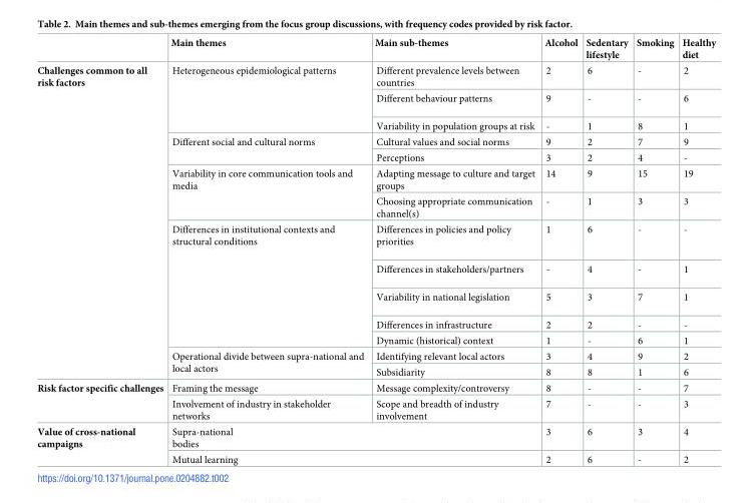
<table><thead><tr><td></td><td>Main themes</td><td>Main sub-themes</td><td>Alcohol</td><td>Sedentary lifestyle</td><td>Smoking</td><td>Healthy diet</td></tr></thead><tbody><tr><td rowspan="14">Challenges common to all risk factors</td><td rowspan="3">Heterogeneous epidemiological patterns</td><td>Different prevalence levels between countries</td><td>2</td><td>6</td><td>-</td><td>2</td></tr><tr><td>Different behaviour patterns</td><td>9</td><td>-</td><td>-</td><td>6</td></tr><tr><td>Variability in population groups at risk</td><td>-</td><td>1</td><td>8</td><td>1</td></tr><tr><td rowspan="2">Different social and cultural norms</td><td>Cultural values and social norms</td><td>9</td><td>2</td><td>7</td><td>9</td></tr><tr><td>Perceptions</td><td>3</td><td>2</td><td>4</td><td>-</td></tr><tr><td rowspan="2">Variability in core communication tools and media</td><td>Adapting message to culture and target groups</td><td>14</td><td>9</td><td>15</td><td>19</td></tr><tr><td>Choosing appropriate communication channel(s)</td><td>-</td><td>1</td><td>3</td><td>3</td></tr><tr><td rowspan="5">Differences in institutional contexts and structural conditions</td><td>Differences in policies and policy priorities</td><td>1</td><td>6</td><td>-</td><td>-</td></tr><tr><td>Differences in stakeholders/partners</td><td>-</td><td>4</td><td>-</td><td>1</td></tr><tr><td>Variability in national legislation</td><td>5</td><td>3</td><td>7</td><td>1</td></tr><tr><td>Differences in infrastructure</td><td>2</td><td>2</td><td>-</td><td>-</td></tr><tr><td>Dynamic (historical) context</td><td>1</td><td>-</td><td>6</td><td>1</td></tr><tr><td rowspan="2">Operational divide between supra-national and local actors</td><td>Identifying relevant local actors</td><td>3</td><td>4</td><td>9</td><td>2</td></tr><tr><td>Subsidiarity</td><td>8</td><td>8</td><td>1</td><td>6</td></tr><tr><td rowspan="2">Risk factor specific challenges</td><td>Framing the message</td><td>Message complexity/controversy</td><td>8</td><td>-</td><td>-</td><td>7</td></tr><tr><td>Involvement of industry in stakeholder networks</td><td>Scope and breadth of industry involvement</td><td>7</td><td>-</td><td>-</td><td>3</td></tr><tr><td rowspan="2">Value of cross-national campaigns</td><td colspan="2">Supra-national bodies</td><td>3</td><td>6</td><td>3</td><td>4</td></tr><tr><td colspan="2">Mutual learning</td><td>2</td><td>6</td><td>-</td><td>2</td></tr></tbody></table>